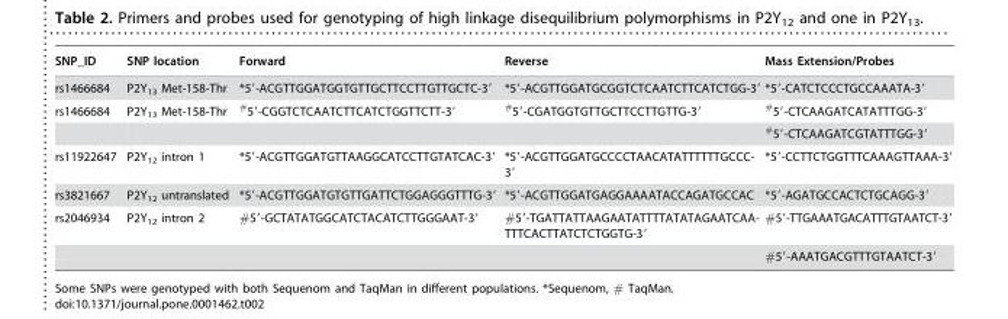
<table><thead><tr><td>SNP_ID</td><td>SNP location</td><td>Forward</td><td>Reverse</td><td>Mass Extension/Probes</td></tr></thead><tbody><tr><td>rs1466684</td><td>P2Y<sub>13</sub> Met-158-Thr</td><td>*5′-ACGTTGGATGGTGTTGCTTCCTTGTTGCTC-3′</td><td>*5′-ACGTTGGATGCGGTCTCAATCTTCATCTGG-3′</td><td>*5′-CATCTCCCTGCCAAATA-3′</td></tr><tr><td rowspan="2">rs1466684</td><td>P2Y<sub>13</sub> Met-158-Thr</td><td><sup>#</sup>5′-CGGTCTCAATCTTCATCTGGTTCTT-3′</td><td><sup>#</sup>5′-CGATGGTGTTGCTTCCTTGTTG-3′</td><td><sup>#</sup>5′-CTCAAGATCATATTTGG-3′</td></tr><tr><td></td><td></td><td></td><td><sup>#</sup>5′-CTCAAGATCGTATTTGG-3′</td></tr><tr><td>rs11922647</td><td>P2Y<sub>12</sub> intron 1</td><td>*5′-ACGTTGGATGTTAAGGCATCCTTGTATCAC-3′</td><td>*5′-ACGTTGGATGCCCCTAACATATTTTTTGCCC- 3′</td><td>*5′-CCTTCTGGTTTCAAAGTTAAA-3′</td></tr><tr><td>rs3821667</td><td>P2Y<sub>12</sub> untranslated</td><td>*5′-ACGTTGGATGTGTTGATTCTGGAGGGTTTG-3′</td><td>*5′-ACGTTGGATGAGGAAAATACCAGATGCCAC</td><td>*5′-AGATGCCACTCTGCAGG-3′</td></tr><tr><td rowspan="2">rs2046934</td><td>P2Y<sub>12</sub> intron 2</td><td>#5′-GCTATATGGCATCTACATCTTGGGAAT-3′</td><td>#59-TGATTATTAAGAATATTTTATATAGAATCAA- TTTCACTTATCTCTGGTG-39</td><td>#5′-TTGAAATGACATTTGTAATCT-3′</td></tr><tr><td></td><td></td><td></td><td>#5′-AAATGACGTTTGTAATCT-3′</td></tr></tbody></table>